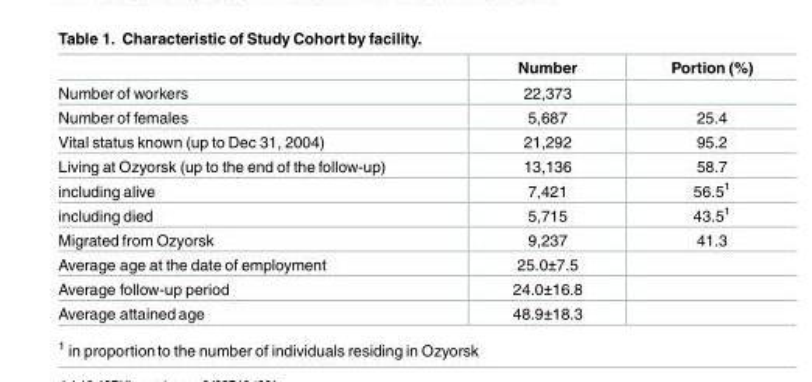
<table><thead><tr><td></td><td>Number</td><td>Portion (%)</td></tr></thead><tbody><tr><td>Number of workers</td><td>22,373</td><td></td></tr><tr><td>Number of females</td><td>5,687</td><td>25.4</td></tr><tr><td>Vital status known (up to Dec 31, 2004)</td><td>21,292</td><td>95.2</td></tr><tr><td>Living at Ozyorsk (up to the end of the follow-up)</td><td>13,136</td><td>58.7</td></tr><tr><td>including alive</td><td>7,421</td><td>56.5<sup>1</sup></td></tr><tr><td>including died</td><td>5,715</td><td>43.5<sup>1</sup></td></tr><tr><td>Migrated from Ozyorsk</td><td>9,237</td><td>41.3</td></tr><tr><td>Average age at the date of employment</td><td>25.0±7.5</td><td></td></tr><tr><td>Average follow-up period</td><td>24.0±16.8</td><td></td></tr><tr><td>Average attained age</td><td>48.9±18.3</td><td></td></tr></tbody></table>